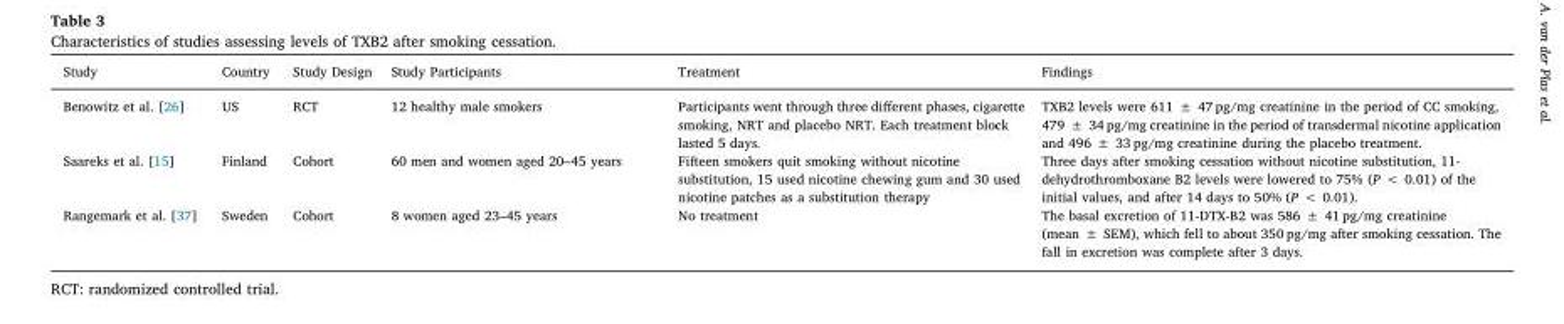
<table><thead><tr><td>Study</td><td>Country</td><td>Study Design</td><td>Study Participants</td><td>Treatment</td><td>Findings</td></tr></thead><tbody><tr><td>Benowitz et al. [26]</td><td>US</td><td>RCT</td><td>12 healthy male smokers</td><td>Participants went through three different phases, cigarette smoking, NRT and placebo NRT. Each treatment block lasted 5 days.</td><td>TXB2 levels were 611 ± 47 pg/mg creatinine in the period of CC smoking, 479 ± 34 pg/mg creatinine in the period of transdermal nicotine application and 496 ± 33 pg/mg creatinine during the placebo treatment.</td></tr><tr><td>Saareks et al. [15]</td><td>Finland</td><td>Cohort</td><td>60 men and women aged 20–45 years</td><td>Fifteen smokers quit smoking without nicotine substitution, 15 used nicotine chewing gum and 30 used nicotine patches as a substitution therapy</td><td>Three days after smoking cessation without nicotine substitution, 11- dehydrothromboxane B2 levels were lowered to 75% (P &lt; 0.01) of the initial values, and after 14 days to 50% (P &lt; 0.01).</td></tr><tr><td>Rangemark et al. [37]</td><td>Sweden</td><td>Cohort</td><td>8 women aged 23–45 years</td><td>No treatment</td><td>The basal excretion of 11-DTX-B2 was 586 ± 41 pg/mg creatinine (mean ± SEM), which fell to about 350 pg/mg after smoking cessation. The fall in excretion was complete after 3 days.</td></tr></tbody></table>